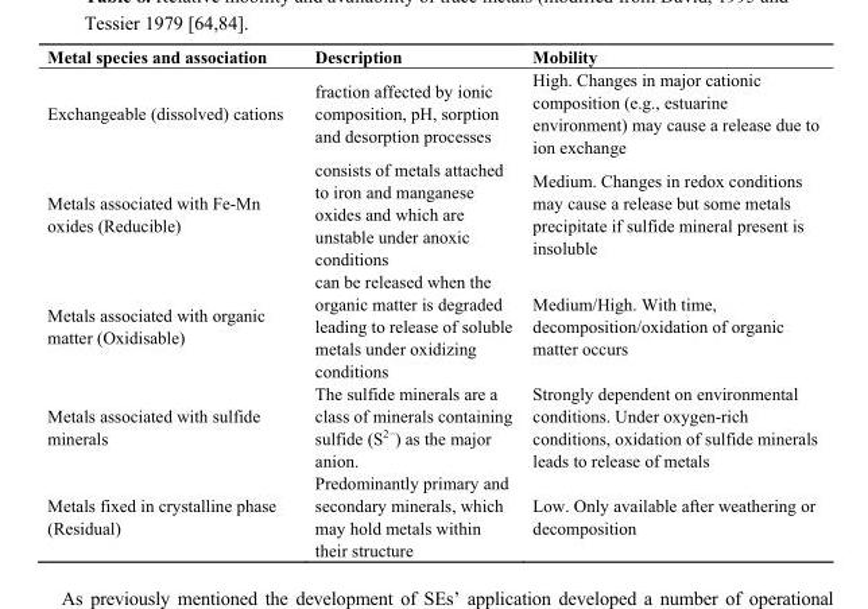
<table><thead><tr><td>Metal species and association</td><td>Description</td><td>Mobility</td></tr></thead><tbody><tr><td>Exchangeable (dissolved) cations</td><td>fraction affected by ionic composition, pH, sorption and desorption processes</td><td>High. Changes in major cationic composition (e.g., estuarine environment) may cause a release due to ion exchange</td></tr><tr><td>Metals associated with Fe-Mn oxides (Reducible)</td><td>consists of metals attached to iron and manganese oxides and which are unstable under anoxic conditions</td><td>Medium. Changes in redox conditions may cause a release but some metals precipitate if sulfide mineral present is insoluble</td></tr><tr><td>Metals associated with organic matter (Oxidisable)</td><td>can be released when the organic matter is degraded leading to release of soluble metals under oxidizing conditions</td><td>Medium/High. With time, decomposition/oxidation of organic matter occurs</td></tr><tr><td>Metals associated with sulfide minerals</td><td>The sulfide minerals are a class of minerals containing sulfide (S<sup>2−</sup>) as the major anion.</td><td>Strongly dependent on environmental conditions. Under oxygen-rich conditions, oxidation of sulfide minerals leads to release of metals</td></tr><tr><td>Metals fixed in crystalline phase (Residual)</td><td>Predominantly primary and secondary minerals, which may hold metals within their structure</td><td>Low. Only available after weathering or decomposition</td></tr></tbody></table>